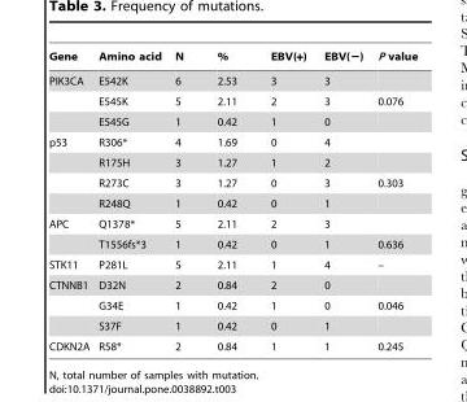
<table><thead><tr><td>Gene</td><td>Amino acid</td><td>N</td><td>%</td><td>EBV(+)</td><td>EBV(−)</td><td>P value</td></tr></thead><tbody><tr><td rowspan="3">PIK3CA</td><td>E542K</td><td>6</td><td>2.53</td><td>3</td><td>3</td><td></td></tr><tr><td>E545K</td><td>5</td><td>2.11</td><td>2</td><td>3</td><td>0.076</td></tr><tr><td>E545G</td><td>1</td><td>0.42</td><td>1</td><td>0</td><td></td></tr><tr><td rowspan="4">p53</td><td>R306*</td><td>4</td><td>1.69</td><td>0</td><td>4</td><td></td></tr><tr><td>R175H</td><td>3</td><td>1.27</td><td>1</td><td>2</td><td></td></tr><tr><td>R273C</td><td>3</td><td>1.27</td><td>0</td><td>3</td><td>0.303</td></tr><tr><td>R248Q</td><td>1</td><td>0.42</td><td>0</td><td>1</td><td></td></tr><tr><td rowspan="2">APC</td><td>Q1378*</td><td>5</td><td>2.11</td><td>2</td><td>3</td><td></td></tr><tr><td>T1556fs*3</td><td>1</td><td>0.42</td><td>0</td><td>1</td><td>0.636</td></tr><tr><td>STK11</td><td>P281L</td><td>5</td><td>2.11</td><td>1</td><td>4</td><td>–</td></tr><tr><td rowspan="3">CTNNB1</td><td>D32N</td><td>2</td><td>0.84</td><td>2</td><td>0</td><td></td></tr><tr><td>G34E</td><td>1</td><td>0.42</td><td>1</td><td>0</td><td>0.046</td></tr><tr><td>S37F</td><td>1</td><td>0.42</td><td>0</td><td>1</td><td></td></tr><tr><td>CDKN2A</td><td>R58*</td><td>2</td><td>0.84</td><td>1</td><td>1</td><td>0.245</td></tr></tbody></table>